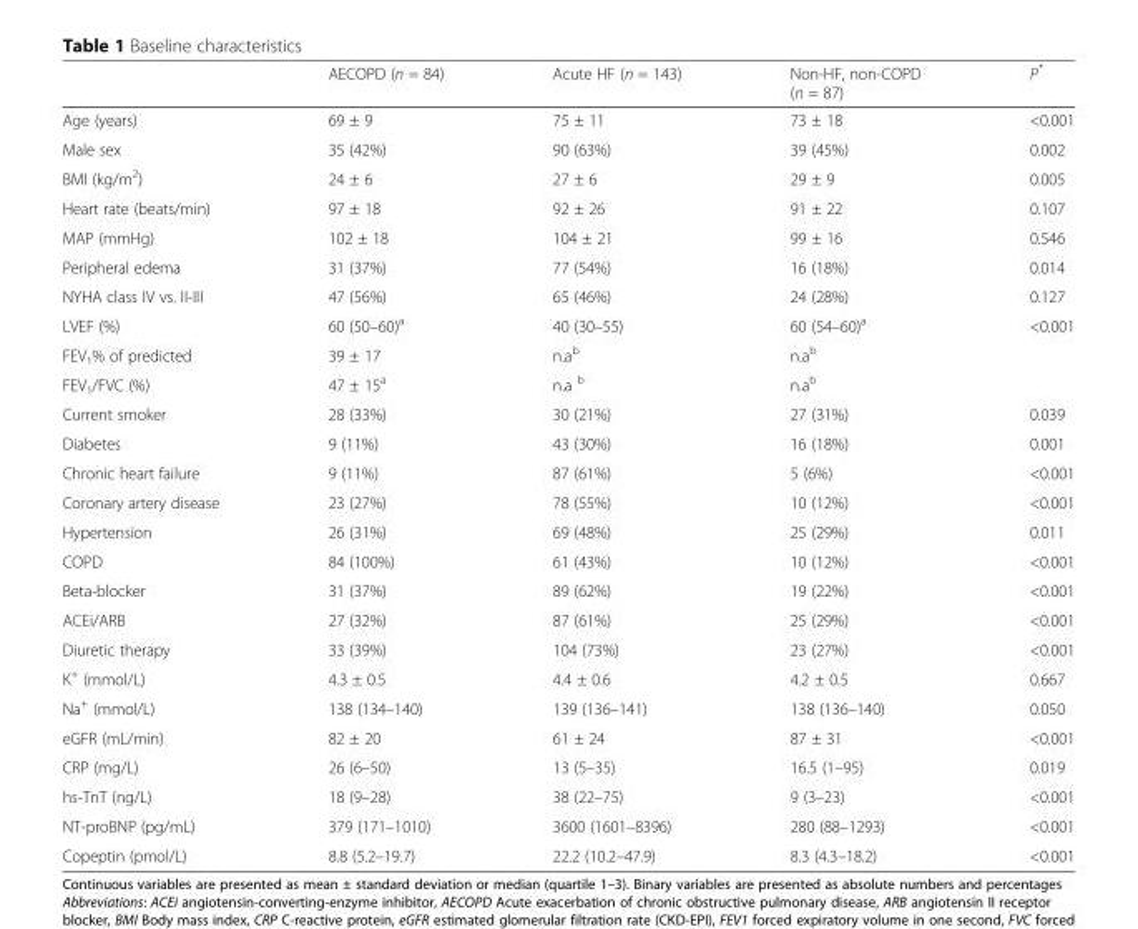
<table><thead><tr><td></td><td>AECOPD (n = 84)</td><td>Acute HF (n = 143)</td><td>Non-HF, non-COPD (n = 87)</td><td>P*</td></tr></thead><tbody><tr><td>Age (years)</td><td>69 ± 9</td><td>75 ± 11</td><td>73 ± 18</td><td>&lt;0.001</td></tr><tr><td>Male sex</td><td>35 (42%)</td><td>90 (63%)</td><td>39 (45%)</td><td>0.002</td></tr><tr><td>BMI (kg/m<sup>2</sup>)</td><td>24 ± 6</td><td>27 ± 6</td><td>29 ± 9</td><td>0.005</td></tr><tr><td>Heart rate (beats/min)</td><td>97 ± 18</td><td>92 ± 26</td><td>91 ± 22</td><td>0.107</td></tr><tr><td>MAP (mmHg)</td><td>102 ± 18</td><td>104 ± 21</td><td>99 ± 16</td><td>0.546</td></tr><tr><td>Peripheral edema</td><td>31 (37%)</td><td>77 (54%)</td><td>16 (18%)</td><td>0.014</td></tr><tr><td>NYHA class IV vs. II-III</td><td>47 (56%)</td><td>65 (46%)</td><td>24 (28%)</td><td>0.127</td></tr><tr><td>LVEF (%)</td><td>60 (50–60)<sup>a</sup></td><td>40 (30–55)</td><td>60 (54–60)<sup>a</sup></td><td>&lt;0.001</td></tr><tr><td>FEV<sub>1</sub>% of predicted</td><td>39 ± 17</td><td>n.a<sup>b</sup></td><td>n.a<sup>b</sup></td><td></td></tr><tr><td>FEV<sub>1</sub>/FVC (%)</td><td>47 ± 15<sup>a</sup></td><td>n.a <sup>b</sup></td><td>n.a<sup>b</sup></td><td></td></tr><tr><td>Current smoker</td><td>28 (33%)</td><td>30 (21%)</td><td>27 (31%)</td><td>0.039</td></tr><tr><td>Diabetes</td><td>9 (11%)</td><td>43 (30%)</td><td>16 (18%)</td><td>0.001</td></tr><tr><td>Chronic heart failure</td><td>9 (11%)</td><td>87 (61%)</td><td>5 (6%)</td><td>&lt;0.001</td></tr><tr><td>Coronary artery disease</td><td>23 (27%)</td><td>78 (55%)</td><td>10 (12%)</td><td>&lt;0.001</td></tr><tr><td>Hypertension</td><td>26 (31%)</td><td>69 (48%)</td><td>25 (29%)</td><td>0.011</td></tr><tr><td>COPD</td><td>84 (100%)</td><td>61 (43%)</td><td>10 (12%)</td><td>&lt;0.001</td></tr><tr><td>Beta-blocker</td><td>31 (37%)</td><td>89 (62%)</td><td>19 (22%)</td><td>&lt;0.001</td></tr><tr><td>ACEi/ARB</td><td>27 (32%)</td><td>87 (61%)</td><td>25 (29%)</td><td>&lt;0.001</td></tr><tr><td>Diuretic therapy</td><td>33 (39%)</td><td>104 (73%)</td><td>23 (27%)</td><td>&lt;0.001</td></tr><tr><td>K<sup>+</sup> (mmol/L)</td><td>4.3 ± 0.5</td><td>4.4 ± 0.6</td><td>4.2 ± 0.5</td><td>0.667</td></tr><tr><td>Na<sup>+</sup> (mmol/L)</td><td>138 (134–140)</td><td>139 (136–141)</td><td>138 (136–140)</td><td>0.050</td></tr><tr><td>eGFR (mL/min)</td><td>82 ± 20</td><td>61 ± 24</td><td>87 ± 31</td><td>&lt;0.001</td></tr><tr><td>CRP (mg/L)</td><td>26 (6–50)</td><td>13 (5–35)</td><td>16.5 (1–95)</td><td>0.019</td></tr><tr><td>hs-TnT (ng/L)</td><td>18 (9–28)</td><td>38 (22–75)</td><td>9 (3–23)</td><td>&lt;0.001</td></tr><tr><td>NT-proBNP (pg/mL)</td><td>379 (171–1010)</td><td>3600 (1601–8396)</td><td>280 (88–1293)</td><td>&lt;0.001</td></tr><tr><td>Copeptin (pmol/L)</td><td>8.8 (5.2–19.7)</td><td>22.2 (10.2–47.9)</td><td>8.3 (4.3–18.2)</td><td>&lt;0.001</td></tr></tbody></table>